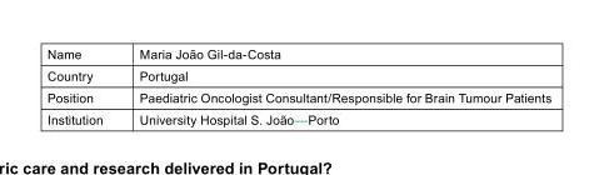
<table><tbody><tr><td>Name</td><td>Maria João Gil-da-Costa</td></tr><tr><td>Country</td><td>Portugal</td></tr><tr><td>Position</td><td>Paediatric Oncologist Consultant/Responsible for Brain Tumour Patients</td></tr><tr><td>Institution</td><td>University Hospital S. João—Porto</td></tr></tbody></table>